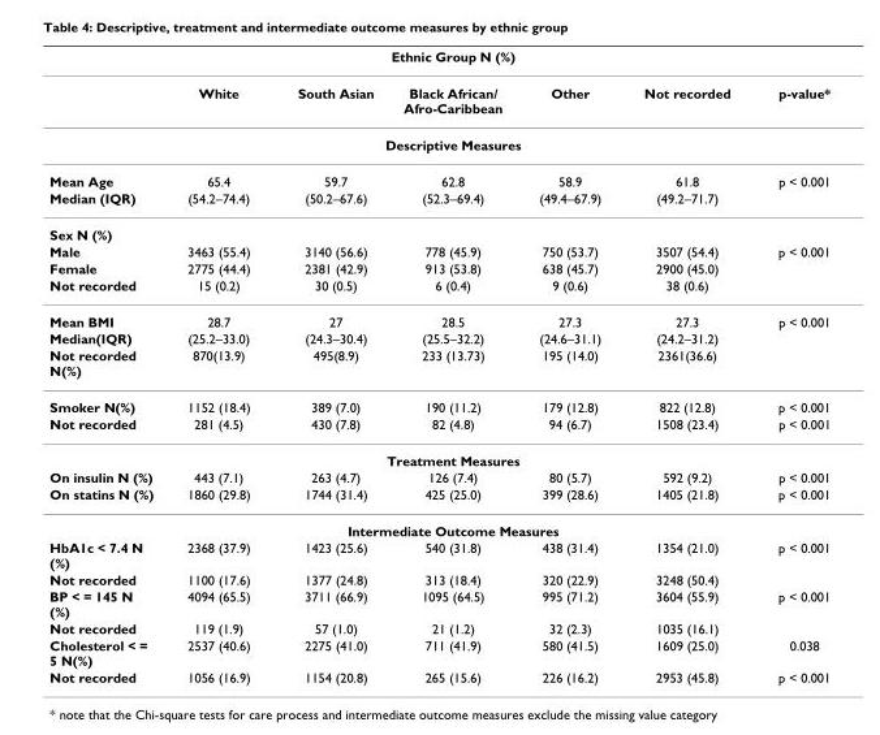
<table><thead><tr><td rowspan="2"></td><td colspan="5">Ethnic Group N (%)</td><td rowspan="2">p-value*</td></tr><tr><td>White</td><td>South Asian</td><td>Black African/ Afro-Caribbean</td><td>Other</td><td>Not recorded</td></tr></thead><tbody><tr><td colspan="7">Descriptive Measures</td></tr><tr><td>Mean Age</td><td>65.4</td><td>59.7</td><td>62.8</td><td>58.9</td><td>61.8</td><td>p &lt; 0.001</td></tr><tr><td>Median (IQR)</td><td>(54.2–74.4)</td><td>(50.2–67.6)</td><td>(52.3–69.4)</td><td>(49.4–67.9)</td><td>(49.2–71.7)</td><td></td></tr><tr><td colspan="7">Sex N (%)</td></tr><tr><td>Male</td><td>3463 (55.4)</td><td>3140 (56.6)</td><td>778 (45.9)</td><td>750 (53.7)</td><td>3507 (54.4)</td><td>p &lt; 0.001</td></tr><tr><td>Female</td><td>2775 (44.4)</td><td>2381 (42.9)</td><td>913 (53.8)</td><td>638 (45.7)</td><td>2900 (45.0)</td><td></td></tr><tr><td>Not recorded</td><td>15 (0.2)</td><td>30 (0.5)</td><td>6 (0.4)</td><td>9 (0.6)</td><td>38 (0.6)</td><td></td></tr><tr><td>Mean BMI</td><td>28.7</td><td>27</td><td>28.5</td><td>27.3</td><td>27.3</td><td>p &lt; 0.001</td></tr><tr><td>Median(IQR)</td><td>(25.2–33.0)</td><td>(24.3–30.4)</td><td>(25.5–32.2)</td><td>(24.6–31.1)</td><td>(24.2–31.2)</td><td></td></tr><tr><td>Not recorded N(%)</td><td>870(13.9)</td><td>495(8.9)</td><td>233 (13.73)</td><td>195 (14.0)</td><td>2361(36.6)</td><td></td></tr><tr><td>Smoker N(%)</td><td>1152 (18.4)</td><td>389 (7.0)</td><td>190 (11.2)</td><td>179 (12.8)</td><td>822 (12.8)</td><td>p &lt; 0.001</td></tr><tr><td>Not recorded</td><td>281 (4.5)</td><td>430 (7.8)</td><td>82 (4.8)</td><td>94 (6.7)</td><td>1508 (23.4)</td><td>p &lt; 0.001</td></tr><tr><td colspan="7">Treatment Measures</td></tr><tr><td>On insulin N (%)</td><td>443 (7.1)</td><td>263 (4.7)</td><td>126 (7.4)</td><td>80 (5.7)</td><td>592 (9.2)</td><td>p &lt; 0.001</td></tr><tr><td>On statins N (%)</td><td>1860 (29.8)</td><td>1744 (31.4)</td><td>425 (25.0)</td><td>399 (28.6)</td><td>1405 (21.8)</td><td>p &lt; 0.001</td></tr><tr><td colspan="7">Intermediate Outcome Measures</td></tr><tr><td>HbA1c &lt; 7.4 N (%)</td><td>2368 (37.9)</td><td>1423 (25.6)</td><td>540 (31.8)</td><td>438 (31.4)</td><td>1354 (21.0)</td><td>p &lt; 0.001</td></tr><tr><td>Not recorded</td><td>1100 (17.6)</td><td>1377 (24.8)</td><td>313 (18.4)</td><td>320 (22.9)</td><td>3248 (50.4)</td><td></td></tr><tr><td>BP &lt; = 145 N (%)</td><td>4094 (65.5)</td><td>3711 (66.9)</td><td>1095 (64.5)</td><td>995 (71.2)</td><td>3604 (55.9)</td><td>p &lt; 0.001</td></tr><tr><td>Not recorded</td><td>119 (1.9)</td><td>57 (1.0)</td><td>21 (1.2)</td><td>32 (2.3)</td><td>1035 (16.1)</td><td></td></tr><tr><td>Cholesterol &lt; = 5 N(%)</td><td>2537 (40.6)</td><td>2275 (41.0)</td><td>711 (41.9)</td><td>580 (41.5)</td><td>1609 (25.0)</td><td>0.038</td></tr><tr><td>Not recorded</td><td>1056 (16.9)</td><td>1154 (20.8)</td><td>265 (15.6)</td><td>226 (16.2)</td><td>2953 (45.8)</td><td>p &lt; 0.001</td></tr></tbody></table>